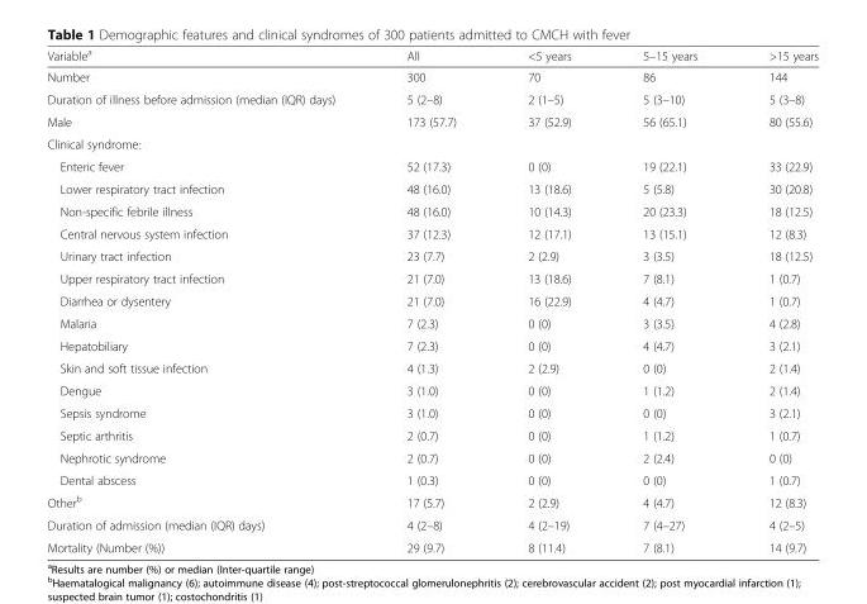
<table><thead><tr><td>Variable<sup>a</sup></td><td>All</td><td>&lt;5 years</td><td>5–15 years</td><td>&gt;15 years</td></tr></thead><tbody><tr><td>Number</td><td>300</td><td>70</td><td>86</td><td>144</td></tr><tr><td>Duration of illness before admission (median (IQR) days)</td><td>5 (2–8)</td><td>2 (1–5)</td><td>5 (3–10)</td><td>5 (3–8)</td></tr><tr><td>Male</td><td>173 (57.7)</td><td>37 (52.9)</td><td>56 (65.1)</td><td>80 (55.6)</td></tr><tr><td colspan="5">Clinical syndrome:</td></tr><tr><td>Enteric fever</td><td>52 (17.3)</td><td>0 (0)</td><td>19 (22.1)</td><td>33 (22.9)</td></tr><tr><td>Lower respiratory tract infection</td><td>48 (16.0)</td><td>13 (18.6)</td><td>5 (5.8)</td><td>30 (20.8)</td></tr><tr><td>Non-specific febrile illness</td><td>48 (16.0)</td><td>10 (14.3)</td><td>20 (23.3)</td><td>18 (12.5)</td></tr><tr><td>Central nervous system infection</td><td>37 (12.3)</td><td>12 (17.1)</td><td>13 (15.1)</td><td>12 (8.3)</td></tr><tr><td>Urinary tract infection</td><td>23 (7.7)</td><td>2 (2.9)</td><td>3 (3.5)</td><td>18 (12.5)</td></tr><tr><td>Upper respiratory tract infection</td><td>21 (7.0)</td><td>13 (18.6)</td><td>7 (8.1)</td><td>1 (0.7)</td></tr><tr><td>Diarrhea or dysentery</td><td>21 (7.0)</td><td>16 (22.9)</td><td>4 (4.7)</td><td>1 (0.7)</td></tr><tr><td>Malaria</td><td>7 (2.3)</td><td>0 (0)</td><td>3 (3.5)</td><td>4 (2.8)</td></tr><tr><td>Hepatobiliary</td><td>7 (2.3)</td><td>0 (0)</td><td>4 (4.7)</td><td>3 (2.1)</td></tr><tr><td>Skin and soft tissue infection</td><td>4 (1.3)</td><td>2 (2.9)</td><td>0 (0)</td><td>2 (1.4)</td></tr><tr><td>Dengue</td><td>3 (1.0)</td><td>0 (0)</td><td>1 (1.2)</td><td>2 (1.4)</td></tr><tr><td>Sepsis syndrome</td><td>3 (1.0)</td><td>0 (0)</td><td>0 (0)</td><td>3 (2.1)</td></tr><tr><td>Septic arthritis</td><td>2 (0.7)</td><td>0 (0)</td><td>1 (1.2)</td><td>1 (0.7)</td></tr><tr><td>Nephrotic syndrome</td><td>2 (0.7)</td><td>0 (0)</td><td>2 (2.4)</td><td>0 (0)</td></tr><tr><td>Dental abscess</td><td>1 (0.3)</td><td>0 (0)</td><td>0 (0)</td><td>1 (0.7)</td></tr><tr><td>Other<sup>b</sup></td><td>17 (5.7)</td><td>2 (2.9)</td><td>4 (4.7)</td><td>12 (8.3)</td></tr><tr><td>Duration of admission (median (IQR) days)</td><td>4 (2–8)</td><td>4 (2–19)</td><td>7 (4–27)</td><td>4 (2–5)</td></tr><tr><td>Mortality (Number (%))</td><td>29 (9.7)</td><td>8 (11.4)</td><td>7 (8.1)</td><td>14 (9.7)</td></tr></tbody></table>